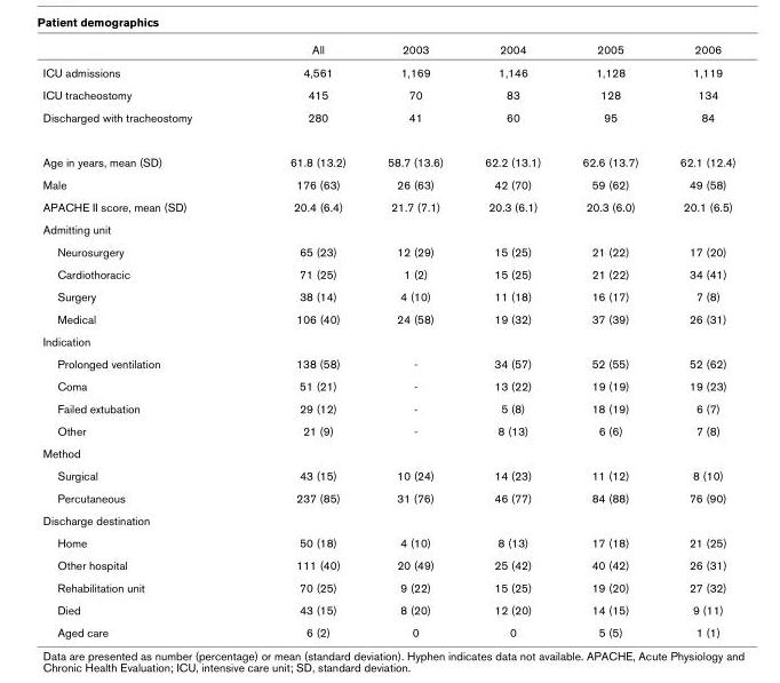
<table><thead><tr><td></td><td>All</td><td>2003</td><td>2004</td><td>2005</td><td>2006</td></tr></thead><tbody><tr><td>ICU admissions</td><td>4,561</td><td>1,169</td><td>1,146</td><td>1,128</td><td>1,119</td></tr><tr><td>ICU tracheostomy</td><td>415</td><td>70</td><td>83</td><td>128</td><td>134</td></tr><tr><td>Discharged with tracheostomy</td><td>280</td><td>41</td><td>60</td><td>95</td><td>84</td></tr><tr><td>Age in years, mean (SD)</td><td>61.8 (13.2)</td><td>58.7 (13.6)</td><td>62.2 (13.1)</td><td>62.6 (13.7)</td><td>62.1 (12.4)</td></tr><tr><td>Male</td><td>176 (63)</td><td>26 (63)</td><td>42 (70)</td><td>59 (62)</td><td>49 (58)</td></tr><tr><td>APACHE II score, mean (SD)</td><td>20.4 (6.4)</td><td>21.7 (7.1)</td><td>20.3 (6.1)</td><td>20.3 (6.0)</td><td>20.1 (6.5)</td></tr><tr><td colspan="6">Admitting unit</td></tr><tr><td>Neurosurgery</td><td>65 (23)</td><td>12 (29)</td><td>15 (25)</td><td>21 (22)</td><td>17 (20)</td></tr><tr><td>Cardiothoracic</td><td>71 (25)</td><td>1 (2)</td><td>15 (25)</td><td>21 (22)</td><td>34 (41)</td></tr><tr><td>Surgery</td><td>38 (14)</td><td>4 (10)</td><td>11 (18)</td><td>16 (17)</td><td>7 (8)</td></tr><tr><td>Medical</td><td>106 (40)</td><td>24 (58)</td><td>19 (32)</td><td>37 (39)</td><td>26 (31)</td></tr><tr><td colspan="6">Indication</td></tr><tr><td>Prolonged ventilation</td><td>138 (58)</td><td>-</td><td>34 (57)</td><td>52 (55)</td><td>52 (62)</td></tr><tr><td>Coma</td><td>51 (21)</td><td>-</td><td>13 (22)</td><td>19 (19)</td><td>19 (23)</td></tr><tr><td>Failed extubation</td><td>29 (12)</td><td>-</td><td>5 (8)</td><td>18 (19)</td><td>6 (7)</td></tr><tr><td>Other</td><td>21 (9)</td><td>-</td><td>8 (13)</td><td>6 (6)</td><td>7 (8)</td></tr><tr><td colspan="6">Method</td></tr><tr><td>Surgical</td><td>43 (15)</td><td>10 (24)</td><td>14 (23)</td><td>11 (12)</td><td>8 (10)</td></tr><tr><td>Percutaneous</td><td>237 (85)</td><td>31 (76)</td><td>46 (77)</td><td>84 (88)</td><td>76 (90)</td></tr><tr><td colspan="6">Discharge destination</td></tr><tr><td>Home</td><td>50 (18)</td><td>4 (10)</td><td>8 (13)</td><td>17 (18)</td><td>21 (25)</td></tr><tr><td>Other hospital</td><td>111 (40)</td><td>20 (49)</td><td>25 (42)</td><td>40 (42)</td><td>26 (31)</td></tr><tr><td>Rehabilitation unit</td><td>70 (25)</td><td>9 (22)</td><td>15 (25)</td><td>19 (20)</td><td>27 (32)</td></tr><tr><td>Died</td><td>43 (15)</td><td>8 (20)</td><td>12 (20)</td><td>14 (15)</td><td>9 (11)</td></tr><tr><td>Aged care</td><td>6 (2)</td><td>0</td><td>0</td><td>5 (5)</td><td>1 (1)</td></tr></tbody></table>